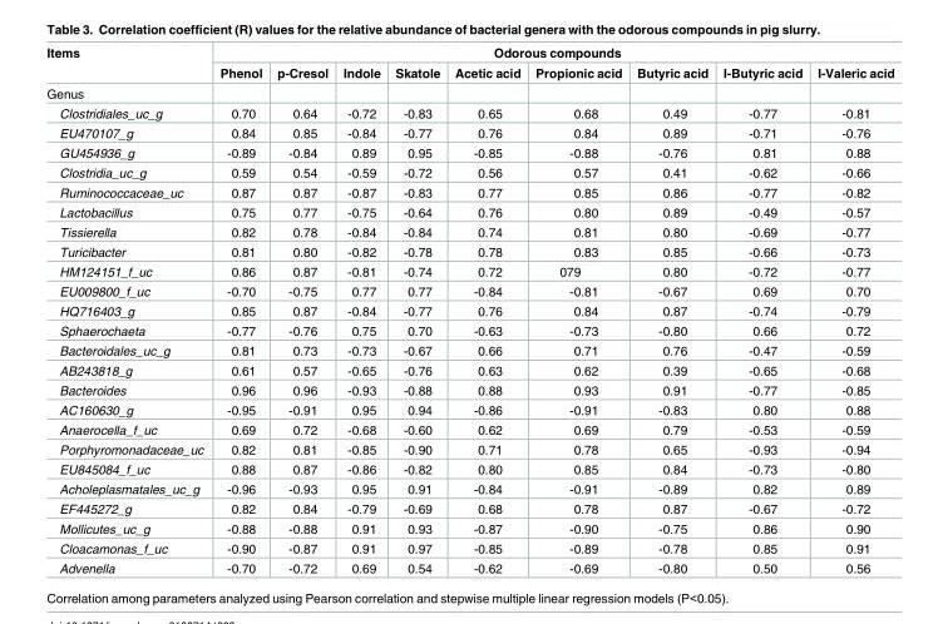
<table><thead><tr><td rowspan="2">Items</td><td colspan="9">Odorous compounds</td></tr><tr><td>Phenol</td><td>p-Cresol</td><td>Indole</td><td>Skatole</td><td>Acetic acid</td><td>Propionic acid</td><td>Butyric acid</td><td>I-Butyric acid</td><td>I-Valeric acid</td></tr></thead><tbody><tr><td colspan="10">Genus</td></tr><tr><td>Clostridiales_uc_g</td><td>0.70</td><td>0.64</td><td>-0.72</td><td>-0.83</td><td>0.65</td><td>0.68</td><td>0.49</td><td>-0.77</td><td>-0.81</td></tr><tr><td>EU470107_g</td><td>0.84</td><td>0.85</td><td>-0.84</td><td>-0.77</td><td>0.76</td><td>0.84</td><td>0.89</td><td>-0.71</td><td>-0.76</td></tr><tr><td>GU454936_g</td><td>-0.89</td><td>-0.84</td><td>0.89</td><td>0.95</td><td>-0.85</td><td>-0.88</td><td>-0.76</td><td>0.81</td><td>0.88</td></tr><tr><td>Clostridia_uc_g</td><td>0.59</td><td>0.54</td><td>-0.59</td><td>-0.72</td><td>0.56</td><td>0.57</td><td>0.41</td><td>-0.62</td><td>-0.66</td></tr><tr><td>Ruminococcaceae_uc</td><td>0.87</td><td>0.87</td><td>-0.87</td><td>-0.83</td><td>0.77</td><td>0.85</td><td>0.86</td><td>-0.77</td><td>-0.82</td></tr><tr><td>Lactobacillus</td><td>0.75</td><td>0.77</td><td>-0.75</td><td>-0.64</td><td>0.76</td><td>0.80</td><td>0.89</td><td>-0.49</td><td>-0.57</td></tr><tr><td>Tissierella</td><td>0.82</td><td>0.78</td><td>-0.84</td><td>-0.84</td><td>0.74</td><td>0.81</td><td>0.80</td><td>-0.69</td><td>-0.77</td></tr><tr><td>Turicibacter</td><td>0.81</td><td>0.80</td><td>-0.82</td><td>-0.78</td><td>0.78</td><td>0.83</td><td>0.85</td><td>-0.66</td><td>-0.73</td></tr><tr><td>HM124151_f_uc</td><td>0.86</td><td>0.87</td><td>-0.81</td><td>-0.74</td><td>0.72</td><td>079</td><td>0.80</td><td>-0.72</td><td>-0.77</td></tr><tr><td>EU009800_f_uc</td><td>-0.70</td><td>-0.75</td><td>0.77</td><td>0.77</td><td>-0.84</td><td>-0.81</td><td>-0.67</td><td>0.69</td><td>0.70</td></tr><tr><td>HQ716403_g</td><td>0.85</td><td>0.87</td><td>-0.84</td><td>-0.77</td><td>0.76</td><td>0.84</td><td>0.87</td><td>-0.74</td><td>-0.79</td></tr><tr><td>Sphaerochaeta</td><td>-0.77</td><td>-0.76</td><td>0.75</td><td>0.70</td><td>-0.63</td><td>-0.73</td><td>-0.80</td><td>0.66</td><td>0.72</td></tr><tr><td>Bacteroidales_uc_g</td><td>0.81</td><td>0.73</td><td>-0.73</td><td>-0.67</td><td>0.66</td><td>0.71</td><td>0.76</td><td>-0.47</td><td>-0.59</td></tr><tr><td>AB243818_g</td><td>0.61</td><td>0.57</td><td>-0.65</td><td>-0.76</td><td>0.63</td><td>0.62</td><td>0.39</td><td>-0.65</td><td>-0.68</td></tr><tr><td>Bacteroides</td><td>0.96</td><td>0.96</td><td>-0.93</td><td>-0.88</td><td>0.88</td><td>0.93</td><td>0.91</td><td>-0.77</td><td>-0.85</td></tr><tr><td>AC160630_g</td><td>-0.95</td><td>-0.91</td><td>0.95</td><td>0.94</td><td>-0.86</td><td>-0.91</td><td>-0.83</td><td>0.80</td><td>0.88</td></tr><tr><td>Anaerocella_f_uc</td><td>0.69</td><td>0.72</td><td>-0.68</td><td>-0.60</td><td>0.62</td><td>0.69</td><td>0.79</td><td>-0.53</td><td>-0.59</td></tr><tr><td>Porphyromonadaceae_uc</td><td>0.82</td><td>0.81</td><td>-0.85</td><td>-0.90</td><td>0.71</td><td>0.78</td><td>0.65</td><td>-0.93</td><td>-0.94</td></tr><tr><td>EU845084_f_uc</td><td>0.88</td><td>0.87</td><td>-0.86</td><td>-0.82</td><td>0.80</td><td>0.85</td><td>0.84</td><td>-0.73</td><td>-0.80</td></tr><tr><td>Acholeplasmatales_uc_g</td><td>-0.96</td><td>-0.93</td><td>0.95</td><td>0.91</td><td>-0.84</td><td>-0.91</td><td>-0.89</td><td>0.82</td><td>0.89</td></tr><tr><td>EF445272_g</td><td>0.82</td><td>0.84</td><td>-0.79</td><td>-0.69</td><td>0.68</td><td>0.78</td><td>0.87</td><td>-0.67</td><td>-0.72</td></tr><tr><td>Mollicutes_uc_g</td><td>-0.88</td><td>-0.88</td><td>0.91</td><td>0.93</td><td>-0.87</td><td>-0.90</td><td>-0.75</td><td>0.86</td><td>0.90</td></tr><tr><td>Cloacamonas_f_uc</td><td>-0.90</td><td>-0.87</td><td>0.91</td><td>0.97</td><td>-0.85</td><td>-0.89</td><td>-0.78</td><td>0.85</td><td>0.91</td></tr><tr><td>Advenella</td><td>-0.70</td><td>-0.72</td><td>0.69</td><td>0.54</td><td>-0.62</td><td>-0.69</td><td>-0.80</td><td>0.50</td><td>0.56</td></tr></tbody></table>